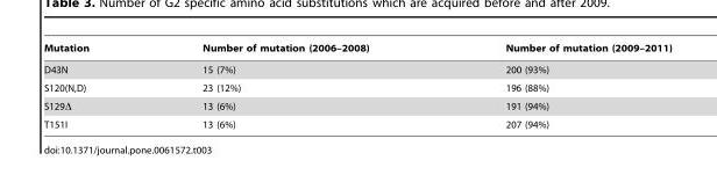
<table><thead><tr><td>Mutation</td><td>Number of mutation (2006–2008)</td><td>Number of mutation (2009–2011)</td></tr></thead><tbody><tr><td>D43N</td><td>15 (7%)</td><td>200 (93%)</td></tr><tr><td>S120(N,D)</td><td>23 (12%)</td><td>196 (88%)</td></tr><tr><td>S129Δ</td><td>13 (6%)</td><td>191 (94%)</td></tr><tr><td>T151I</td><td>13 (6%)</td><td>207 (94%)</td></tr></tbody></table>